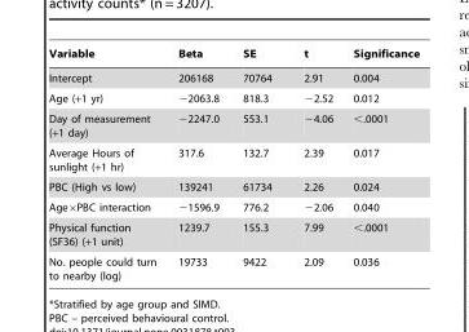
<table><thead><tr><td>Variable</td><td>Beta</td><td>SE</td><td>t</td><td>Significance</td></tr></thead><tbody><tr><td>Intercept</td><td>206168</td><td>70764</td><td>2.91</td><td>0.004</td></tr><tr><td>Age (+1 yr)</td><td>−2063.8</td><td>818.3</td><td>−2.52</td><td>0.012</td></tr><tr><td>Day of measurement (+1 day)</td><td>−2247.0</td><td>553.1</td><td>−4.06</td><td>&lt;.0001</td></tr><tr><td>Average Hours of sunlight (+1 hr)</td><td>317.6</td><td>132.7</td><td>2.39</td><td>0.017</td></tr><tr><td>PBC (High vs low)</td><td>139241</td><td>61734</td><td>2.26</td><td>0.024</td></tr><tr><td>Age×PBC interaction</td><td>−1596.9</td><td>776.2</td><td>−2.06</td><td>0.040</td></tr><tr><td>Physical function (SF36) (+1 unit)</td><td>1239.7</td><td>155.3</td><td>7.99</td><td>&lt;.0001</td></tr><tr><td>No. people could turn to nearby (log)</td><td>19733</td><td>9422</td><td>2.09</td><td>0.036</td></tr></tbody></table>